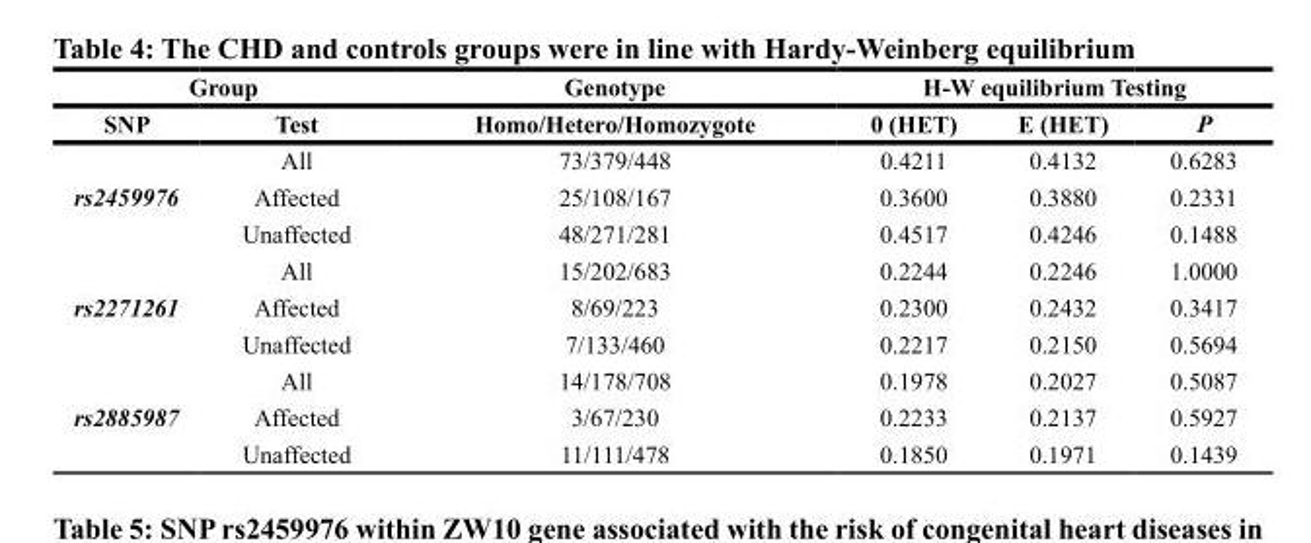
<table><thead><tr><td colspan="2">Group</td><td rowspan="2">Genotype Homo/Hetero/Homozygote</td><td colspan="3">H-W equilibrium Testing</td></tr><tr><td>SNP</td><td>Test</td><td>0 (HET)</td><td>E (HET)</td><td>P</td></tr></thead><tbody><tr><td rowspan="3">rs2459976</td><td>All</td><td>73/379/448</td><td>0.4211</td><td>0.4132</td><td>0.6283</td></tr><tr><td>Affected</td><td>25/108/167</td><td>0.3600</td><td>0.3880</td><td>0.2331</td></tr><tr><td>Unaffected</td><td>48/271/281</td><td>0.4517</td><td>0.4246</td><td>0.1488</td></tr><tr><td rowspan="3">rs2271261</td><td>All</td><td>15/202/683</td><td>0.2244</td><td>0.2246</td><td>1.0000</td></tr><tr><td>Affected</td><td>8/69/223</td><td>0.2300</td><td>0.2432</td><td>0.3417</td></tr><tr><td>Unaffected</td><td>7/133/460</td><td>0.2217</td><td>0.2150</td><td>0.5694</td></tr><tr><td rowspan="3">rs2885987</td><td>All</td><td>14/178/708</td><td>0.1978</td><td>0.2027</td><td>0.5087</td></tr><tr><td>Affected</td><td>3/67/230</td><td>0.2233</td><td>0.2137</td><td>0.5927</td></tr><tr><td>Unaffected</td><td>11/111/478</td><td>0.1850</td><td>0.1971</td><td>0.1439</td></tr></tbody></table>